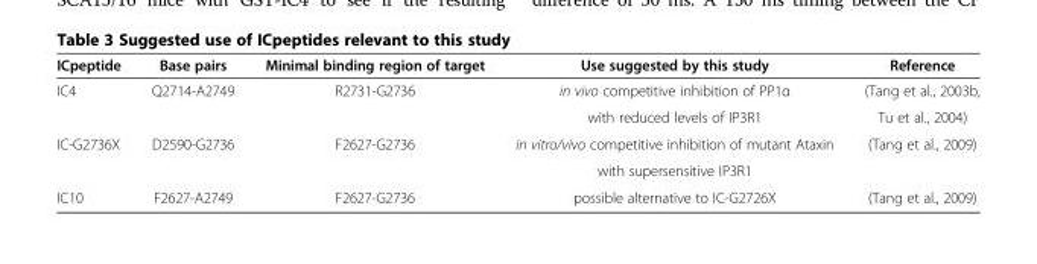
<table><thead><tr><td>ICpeptide</td><td>Base pairs</td><td>Minimal binding region of target</td><td>Use suggested by this study</td><td>Reference</td></tr></thead><tbody><tr><td rowspan="2">IC4</td><td>Q2714-A2749</td><td>R2731-G2736</td><td>in vivo competitive inhibition of PP1α</td><td>(Tang et al., 2003b,</td></tr><tr><td></td><td></td><td>with reduced levels of IP3R1</td><td>Tu et al., 2004)</td></tr><tr><td rowspan="2">IC-G2736X</td><td>D2590-G2736</td><td>F2627-G2736</td><td>in vitro/vivo competitive inhibition of mutant Ataxin</td><td>(Tang et al., 2009)</td></tr><tr><td></td><td></td><td>with supersensitive IP3R1</td><td></td></tr><tr><td>IC10</td><td>F2627-A2749</td><td>F2627-G2736</td><td>possible alternative to IC-G2726X</td><td>(Tang et al., 2009)</td></tr></tbody></table>